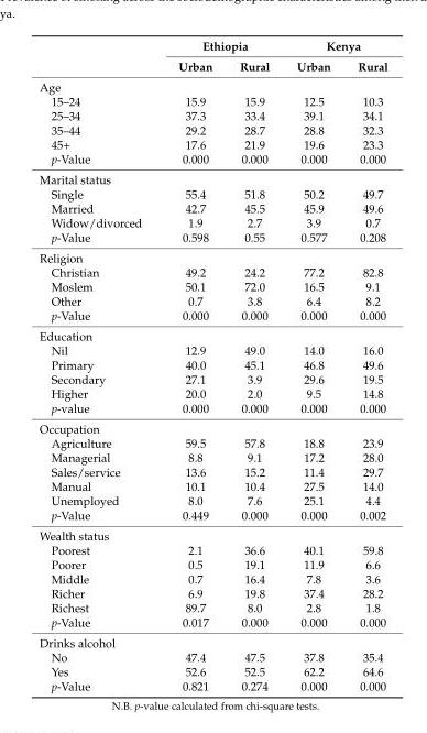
<table><thead><tr><td rowspan="2"></td><td colspan="2">Ethiopia</td><td colspan="2">Kenya</td></tr><tr><td>Urban</td><td>Rural</td><td>Urban</td><td>Rural</td></tr></thead><tbody><tr><td colspan="5">Age</td></tr><tr><td>15–24</td><td>15.9</td><td>15.9</td><td>12.5</td><td>10.3</td></tr><tr><td>25–34</td><td>37.3</td><td>33.4</td><td>39.1</td><td>34.1</td></tr><tr><td>35–44</td><td>29.2</td><td>28.7</td><td>28.8</td><td>32.3</td></tr><tr><td>45+</td><td>17.6</td><td>21.9</td><td>19.6</td><td>23.3</td></tr><tr><td>p-Value</td><td>0.000</td><td>0.000</td><td>0.000</td><td>0.000</td></tr><tr><td colspan="5">Marital status</td></tr><tr><td>Single</td><td>55.4</td><td>51.8</td><td>50.2</td><td>49.7</td></tr><tr><td>Married</td><td>42.7</td><td>45.5</td><td>45.9</td><td>49.6</td></tr><tr><td>Widow/divorced</td><td>1.9</td><td>2.7</td><td>3.9</td><td>0.7</td></tr><tr><td>p-Value</td><td>0.598</td><td>0.55</td><td>0.577</td><td>0.208</td></tr><tr><td colspan="5">Religion</td></tr><tr><td>Christian</td><td>49.2</td><td>24.2</td><td>77.2</td><td>82.8</td></tr><tr><td>Moslem</td><td>50.1</td><td>72.0</td><td>16.5</td><td>9.1</td></tr><tr><td>Other</td><td>0.7</td><td>3.8</td><td>6.4</td><td>8.2</td></tr><tr><td>p-Value</td><td>0.000</td><td>0.000</td><td>0.000</td><td>0.000</td></tr><tr><td colspan="5">Education</td></tr><tr><td>Nil</td><td>12.9</td><td>49.0</td><td>14.0</td><td>16.0</td></tr><tr><td>Primary</td><td>40.0</td><td>45.1</td><td>46.8</td><td>49.6</td></tr><tr><td>Secondary</td><td>27.1</td><td>3.9</td><td>29.6</td><td>19.5</td></tr><tr><td>Higher</td><td>20.0</td><td>2.0</td><td>9.5</td><td>14.8</td></tr><tr><td>p-value</td><td>0.000</td><td>0.000</td><td>0.000</td><td>0.000</td></tr><tr><td colspan="5">Occupation</td></tr><tr><td>Agriculture</td><td>59.5</td><td>57.8</td><td>18.8</td><td>23.9</td></tr><tr><td>Managerial</td><td>8.8</td><td>9.1</td><td>17.2</td><td>28.0</td></tr><tr><td>Sales/service</td><td>13.6</td><td>15.2</td><td>11.4</td><td>29.7</td></tr><tr><td>Manual</td><td>10.1</td><td>10.4</td><td>27.5</td><td>14.0</td></tr><tr><td>Unemployed</td><td>8.0</td><td>7.6</td><td>25.1</td><td>4.4</td></tr><tr><td>p-Value</td><td>0.449</td><td>0.000</td><td>0.000</td><td>0.002</td></tr><tr><td colspan="5">Wealth status</td></tr><tr><td>Poorest</td><td>2.1</td><td>36.6</td><td>40.1</td><td>59.8</td></tr><tr><td>Poorer</td><td>0.5</td><td>19.1</td><td>11.9</td><td>6.6</td></tr><tr><td>Middle</td><td>0.7</td><td>16.4</td><td>7.8</td><td>3.6</td></tr><tr><td>Richer</td><td>6.9</td><td>19.8</td><td>37.4</td><td>28.2</td></tr><tr><td>Richest</td><td>89.7</td><td>8.0</td><td>2.8</td><td>1.8</td></tr><tr><td>p-Value</td><td>0.017</td><td>0.000</td><td>0.000</td><td>0.000</td></tr><tr><td colspan="5">Drinks alcohol</td></tr><tr><td>No</td><td>47.4</td><td>47.5</td><td>37.8</td><td>35.4</td></tr><tr><td>Yes</td><td>52.6</td><td>52.5</td><td>62.2</td><td>64.6</td></tr><tr><td>p-Value</td><td>0.821</td><td>0.274</td><td>0.000</td><td>0.000</td></tr></tbody></table>